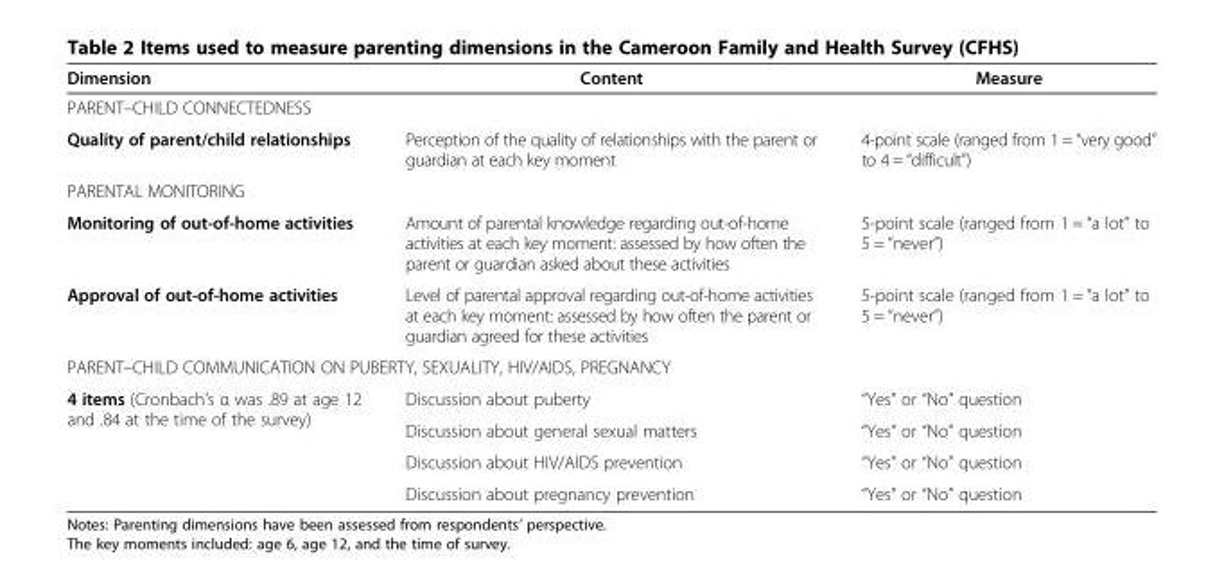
<table><thead><tr><td>Dimension</td><td>Content</td><td>Measure</td></tr></thead><tbody><tr><td colspan="3">PARENT–CHILD CONNECTEDNESS</td></tr><tr><td>Quality of parent/child relationships</td><td>Perception of the quality of relationships with the parent or guardian at each key moment</td><td>4-point scale (ranged from 1 = “very good” to 4 = “difficult”)</td></tr><tr><td colspan="3">PARENTAL MONITORING</td></tr><tr><td>Monitoring of out-of-home activities</td><td>Amount of parental knowledge regarding out-of-home activities at each key moment: assessed by how often the parent or guardian asked about these activities</td><td>5-point scale (ranged from 1 = “a lot” to 5 = “never”)</td></tr><tr><td>Approval of out-of-home activities</td><td>Level of parental approval regarding out-of-home activities at each key moment: assessed by how often the parent or guardian agreed for these activities</td><td>5-point scale (ranged from 1 = “a lot” to 5 = “never”)</td></tr><tr><td colspan="3">PARENT–CHILD COMMUNICATION ON PUBERTY, SEXUALITY, HIV/AIDS, PREGNANCY</td></tr><tr><td rowspan="4">4 items (Cronbach’s α was .89 at age 12 and .84 at the time of the survey)</td><td>Discussion about puberty</td><td>“Yes” or “No” question</td></tr><tr><td>Discussion about general sexual matters</td><td>“Yes” or “No” question</td></tr><tr><td>Discussion about HIV/AIDS prevention</td><td>“Yes” or “No” question</td></tr><tr><td>Discussion about pregnancy prevention</td><td>“Yes” or “No” question</td></tr></tbody></table>